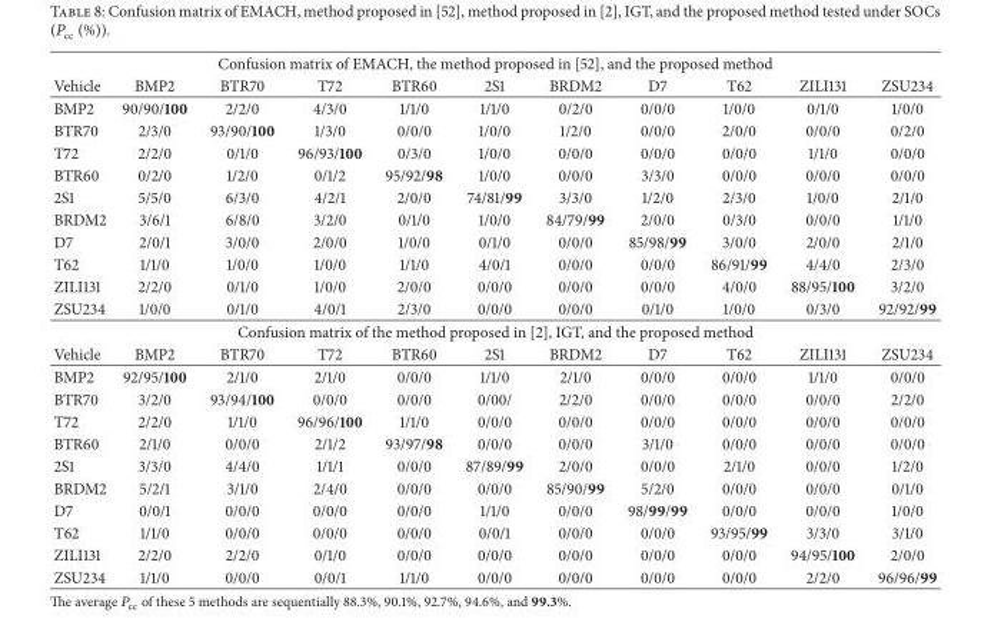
<table><thead><tr><td colspan="11">Confusion matrix of EMACH, the method proposed in [52], and the proposed method</td></tr><tr><td>Vehicle</td><td>BMP2</td><td>BTR70</td><td>T72</td><td>BTR60</td><td>2S1</td><td>BRDM2</td><td>D7</td><td>T62</td><td>ZILI131</td><td>ZSU234</td></tr></thead><tbody><tr><td>BMP2</td><td>90/90/100</td><td>2/2/0</td><td>4/3/0</td><td>1/1/0</td><td>1/1/0</td><td>0/2/0</td><td>0/0/0</td><td>1/0/0</td><td>0/1/0</td><td>1/0/0</td></tr><tr><td>BTR70</td><td>2/3/0</td><td>93/90/100</td><td>1/3/0</td><td>0/0/0</td><td>1/0/0</td><td>1/2/0</td><td>0/0/0</td><td>2/0/0</td><td>0/0/0</td><td>0/2/0</td></tr><tr><td>T72</td><td>2/2/0</td><td>0/1/0</td><td>96/93/100</td><td>0/3/0</td><td>1/0/0</td><td>0/0/0</td><td>0/0/0</td><td>0/0/0</td><td>1/1/0</td><td>0/0/0</td></tr><tr><td>BTR60</td><td>0/2/0</td><td>1/2/0</td><td>0/1/2</td><td>95/92/98</td><td>1/0/0</td><td>0/0/0</td><td>3/3/0</td><td>0/0/0</td><td>0/0/0</td><td>0/0/0</td></tr><tr><td>2S1</td><td>5/5/0</td><td>6/3/0</td><td>4/2/1</td><td>2/0/0</td><td>74/81/99</td><td>3/3/0</td><td>1/2/0</td><td>2/3/0</td><td>1/0/0</td><td>2/1/0</td></tr><tr><td>BRDM2</td><td>3/6/1</td><td>6/8/0</td><td>3/2/0</td><td>0/1/0</td><td>1/0/0</td><td>84/79/99</td><td>2/0/0</td><td>0/3/0</td><td>0/0/0</td><td>1/1/0</td></tr><tr><td>D7</td><td>2/0/1</td><td>3/0/0</td><td>2/0/0</td><td>1/0/0</td><td>0/1/0</td><td>0/0/0</td><td>85/98/99</td><td>3/0/0</td><td>2/0/0</td><td>2/1/0</td></tr><tr><td>T62</td><td>1/1/0</td><td>1/0/0</td><td>1/0/0</td><td>1/1/0</td><td>4/0/1</td><td>0/0/0</td><td>0/0/0</td><td>86/91/99</td><td>4/4/0</td><td>2/3/0</td></tr><tr><td>ZILI131</td><td>2/2/0</td><td>0/1/0</td><td>1/0/0</td><td>2/0/0</td><td>0/0/0</td><td>0/0/0</td><td>0/0/0</td><td>4/0/0</td><td>88/95/100</td><td>3/2/0</td></tr><tr><td>ZSU234</td><td>1/0/0</td><td>0/1/0</td><td>4/0/1</td><td>2/3/0</td><td>0/0/0</td><td>0/0/0</td><td>0/1/0</td><td>1/0/0</td><td>0/3/0</td><td>92/92/99</td></tr><tr><td colspan="11">Confusion matrix of the method proposed in [2], IGT, and the proposed method</td></tr><tr><td>Vehicle</td><td>BMP2</td><td>BTR70</td><td>T72</td><td>BTR60</td><td>2S1</td><td>BRDM2</td><td>D7</td><td>T62</td><td>ZILI131</td><td>ZSU234</td></tr><tr><td>BMP2</td><td>92/95/100</td><td>2/1/0</td><td>2/1/0</td><td>0/0/0</td><td>1/1/0</td><td>2/1/0</td><td>0/0/0</td><td>0/0/0</td><td>1/1/0</td><td>0/0/0</td></tr><tr><td>BTR70</td><td>3/2/0</td><td>93/94/100</td><td>0/0/0</td><td>0/0/0</td><td>0/00/</td><td>2/2/0</td><td>0/0/0</td><td>0/0/0</td><td>0/0/0</td><td>2/2/0</td></tr><tr><td>T72</td><td>2/2/0</td><td>1/1/0</td><td>96/96/100</td><td>1/1/0</td><td>0/0/0</td><td>0/0/0</td><td>0/0/0</td><td>0/0/0</td><td>0/0/0</td><td>0/0/0</td></tr><tr><td>BTR60</td><td>2/1/0</td><td>0/0/0</td><td>2/1/2</td><td>93/97/98</td><td>0/0/0</td><td>0/0/0</td><td>3/1/0</td><td>0/0/0</td><td>0/0/0</td><td>0/0/0</td></tr><tr><td>2S1</td><td>3/3/0</td><td>4/4/0</td><td>1/1/1</td><td>0/0/0</td><td>87/89/99</td><td>2/0/0</td><td>0/0/0</td><td>2/1/0</td><td>0/0/0</td><td>1/2/0</td></tr><tr><td>BRDM2</td><td>5/2/1</td><td>3/1/0</td><td>2/4/0</td><td>0/0/0</td><td>0/0/0</td><td>85/90/99</td><td>5/2/0</td><td>0/0/0</td><td>0/0/0</td><td>0/1/0</td></tr><tr><td>D7</td><td>0/0/1</td><td>0/0/0</td><td>0/0/0</td><td>0/0/0</td><td>1/1/0</td><td>0/0/0</td><td>98/99/99</td><td>0/0/0</td><td>0/0/0</td><td>1/0/0</td></tr><tr><td>T62</td><td>1/1/0</td><td>0/0/0</td><td>0/0/0</td><td>0/0/0</td><td>0/0/1</td><td>0/0/0</td><td>0/0/0</td><td>93/95/99</td><td>3/3/0</td><td>3/1/0</td></tr><tr><td>ZILI131</td><td>2/2/0</td><td>2/2/0</td><td>0/1/0</td><td>0/0/0</td><td>0/0/0</td><td>0/0/0</td><td>0/0/0</td><td>0/0/0</td><td>94/95/100</td><td>2/0/0</td></tr><tr><td>ZSU234</td><td>1/1/0</td><td>0/0/0</td><td>0/0/1</td><td>1/1/0</td><td>0/0/0</td><td>0/0/0</td><td>0/0/0</td><td>0/0/0</td><td>2/2/0</td><td>96/96/99</td></tr></tbody></table>